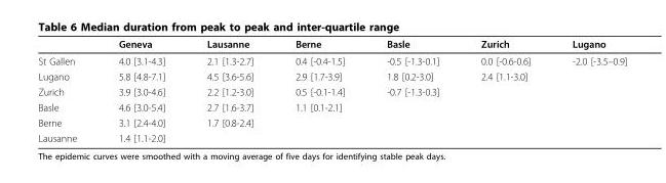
<table><thead><tr><td></td><td>Geneva</td><td>Lausanne</td><td>Berne</td><td>Basle</td><td>Zurich</td><td>Lugano</td></tr></thead><tbody><tr><td>St Gallen</td><td>4.0 [3.1-4.3]</td><td>2.1 [1.3-2.7]</td><td>0.4 [-0.4-1.5]</td><td>-0.5 [-1.3-0.1]</td><td>0.0 [-0.6-0.6]</td><td>-2.0 [-3.5–0.9]</td></tr><tr><td>Lugano</td><td>5.8 [4.8-7.1]</td><td>4.5 [3.6-5.6]</td><td>2.9 [1.7-3.9]</td><td>1.8 [0.2-3.0]</td><td>2.4 [1.1-3.0]</td><td></td></tr><tr><td>Zurich</td><td>3.9 [3.0-4.6]</td><td>2.2 [1.2-3.0]</td><td>0.5 [-0.1-1.4]</td><td>-0.7 [-1.3-0.3]</td><td></td><td></td></tr><tr><td>Basle</td><td>4.6 [3.0-5.4]</td><td>2.7 [1.6-3.7]</td><td>1.1 [0.1-2.1]</td><td></td><td></td><td></td></tr><tr><td>Berne</td><td>3.1 [2.4-4.0]</td><td>1.7 [0.8-2.4]</td><td></td><td></td><td></td><td></td></tr><tr><td>Lausanne</td><td>1.4 [1.1-2.0]</td><td></td><td></td><td></td><td></td><td></td></tr></tbody></table>